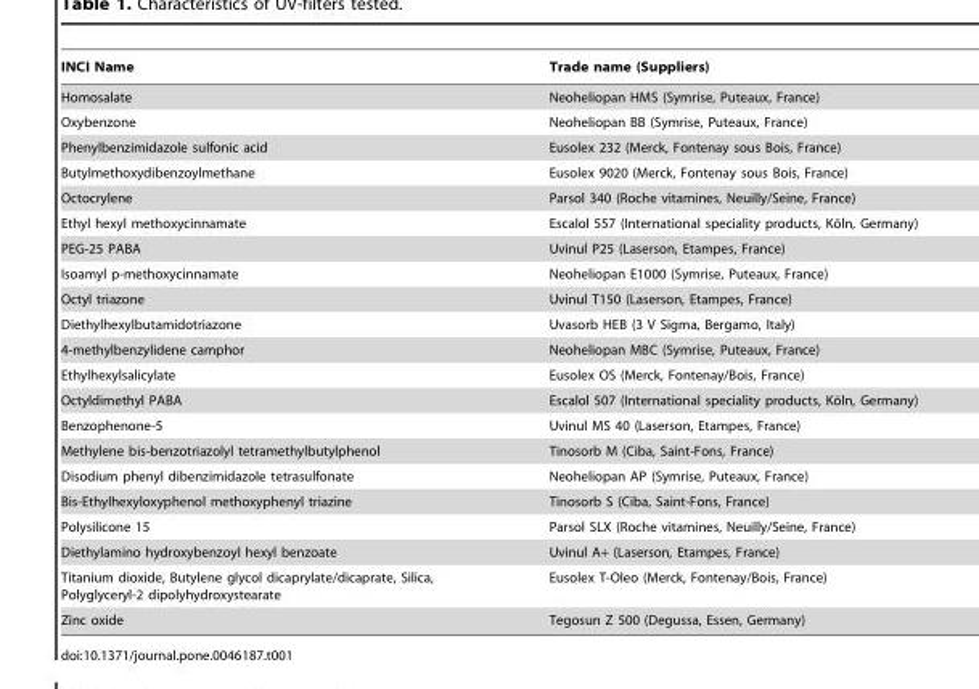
<table><thead><tr><td>INCI Name</td><td>Trade name (Suppliers)</td></tr></thead><tbody><tr><td>Homosalate</td><td>Neoheliopan HMS (Symrise, Puteaux, France)</td></tr><tr><td>Oxybenzone</td><td>Neoheliopan BB (Symrise, Puteaux, France)</td></tr><tr><td>Phenylbenzimidazole sulfonic acid</td><td>Eusolex 232 (Merck, Fontenay sous Bois, France)</td></tr><tr><td>Butylmethoxydibenzoylmethane</td><td>Eusolex 9020 (Merck, Fontenay sous Bois, France)</td></tr><tr><td>Octocrylene</td><td>Parsol 340 (Roche vitamines, Neuilly/Seine, France)</td></tr><tr><td>Ethyl hexyl methoxycinnamate</td><td>Escalol 557 (International speciality products, Ko¨ln, Germany)</td></tr><tr><td>PEG-25 PABA</td><td>Uvinul P25 (Laserson, Etampes, France)</td></tr><tr><td>Isoamyl p-methoxycinnamate</td><td>Neoheliopan E1000 (Symrise, Puteaux, France)</td></tr><tr><td>Octyl triazone</td><td>Uvinul T150 (Laserson, Etampes, France)</td></tr><tr><td>Diethylhexylbutamidotriazone</td><td>Uvasorb HEB (3 V Sigma, Bergamo, Italy)</td></tr><tr><td>4-methylbenzylidene camphor</td><td>Neoheliopan MBC (Symrise, Puteaux, France)</td></tr><tr><td>Ethylhexylsalicylate</td><td>Eusolex OS (Merck, Fontenay/Bois, France)</td></tr><tr><td>Octyldimethyl PABA</td><td>Escalol 507 (International speciality products, Ko¨ln, Germany)</td></tr><tr><td>Benzophenone-5</td><td>Uvinul MS 40 (Laserson, Etampes, France)</td></tr><tr><td>Methylene bis-benzotriazolyl tetramethylbutylphenol</td><td>Tinosorb M (Ciba, Saint-Fons, France)</td></tr><tr><td>Disodium phenyl dibenzimidazole tetrasulfonate</td><td>Neoheliopan AP (Symrise, Puteaux, France)</td></tr><tr><td>Bis-Ethylhexyloxyphenol methoxyphenyl triazine</td><td>Tinosorb S (Ciba, Saint-Fons, France)</td></tr><tr><td>Polysilicone 15</td><td>Parsol SLX (Roche vitamines, Neuilly/Seine, France)</td></tr><tr><td>Diethylamino hydroxybenzoyl hexyl benzoate</td><td>Uvinul A+ (Laserson, Etampes, France)</td></tr><tr><td>Titanium dioxide, Butylene glycol dicaprylate/dicaprate, Silica, Polyglyceryl-2 dipolyhydroxystearate</td><td>Eusolex T-Oleo (Merck, Fontenay/Bois, France)</td></tr><tr><td>Zinc oxide</td><td>Tegosun Z 500 (Degussa, Essen, Germany)</td></tr></tbody></table>